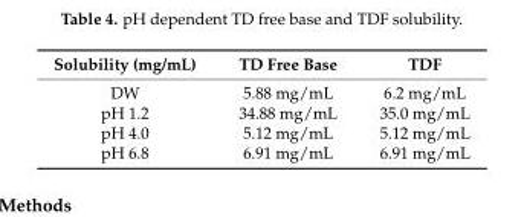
<table><thead><tr><td>Solubility (mg/mL)</td><td>TD Free Base</td><td>TDF</td></tr></thead><tbody><tr><td>DW</td><td>5.88 mg/mL</td><td>6.2 mg/mL</td></tr><tr><td>pH 1.2</td><td>34.88 mg/mL</td><td>35.0 mg/mL</td></tr><tr><td>pH 4.0</td><td>5.12 mg/mL</td><td>5.12 mg/mL</td></tr><tr><td>pH 6.8</td><td>6.91 mg/mL</td><td>6.91 mg/mL</td></tr></tbody></table>